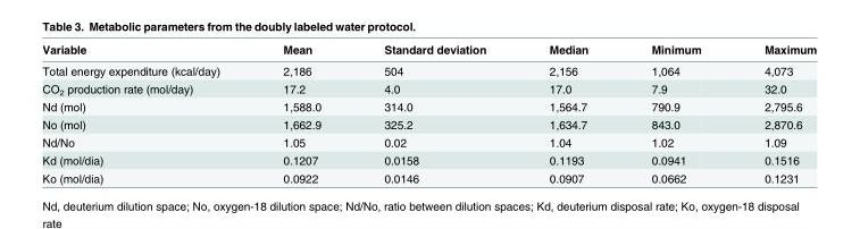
<table><thead><tr><td>Variable</td><td>Mean</td><td>Standard deviation</td><td>Median</td><td>Minimum</td><td>Maximum</td></tr></thead><tbody><tr><td>Total energy expenditure (kcal/day)</td><td>2,186</td><td>504</td><td>2,156</td><td>1,064</td><td>4,073</td></tr><tr><td>CO<sub>2</sub> production rate (mol/day)</td><td>17.2</td><td>4.0</td><td>17.0</td><td>7.9</td><td>32.0</td></tr><tr><td>Nd (mol)</td><td>1,588.0</td><td>314.0</td><td>1,564.7</td><td>790.9</td><td>2,795.6</td></tr><tr><td>No (mol)</td><td>1,662.9</td><td>325.2</td><td>1,634.7</td><td>843.0</td><td>2,870.6</td></tr><tr><td>Nd/No</td><td>1.05</td><td>0.02</td><td>1.04</td><td>1.02</td><td>1.09</td></tr><tr><td>Kd (mol/dia)</td><td>0.1207</td><td>0.0158</td><td>0.1193</td><td>0.0941</td><td>0.1516</td></tr><tr><td>Ko (mol/dia)</td><td>0.0922</td><td>0.0146</td><td>0.0907</td><td>0.0662</td><td>0.1231</td></tr></tbody></table>